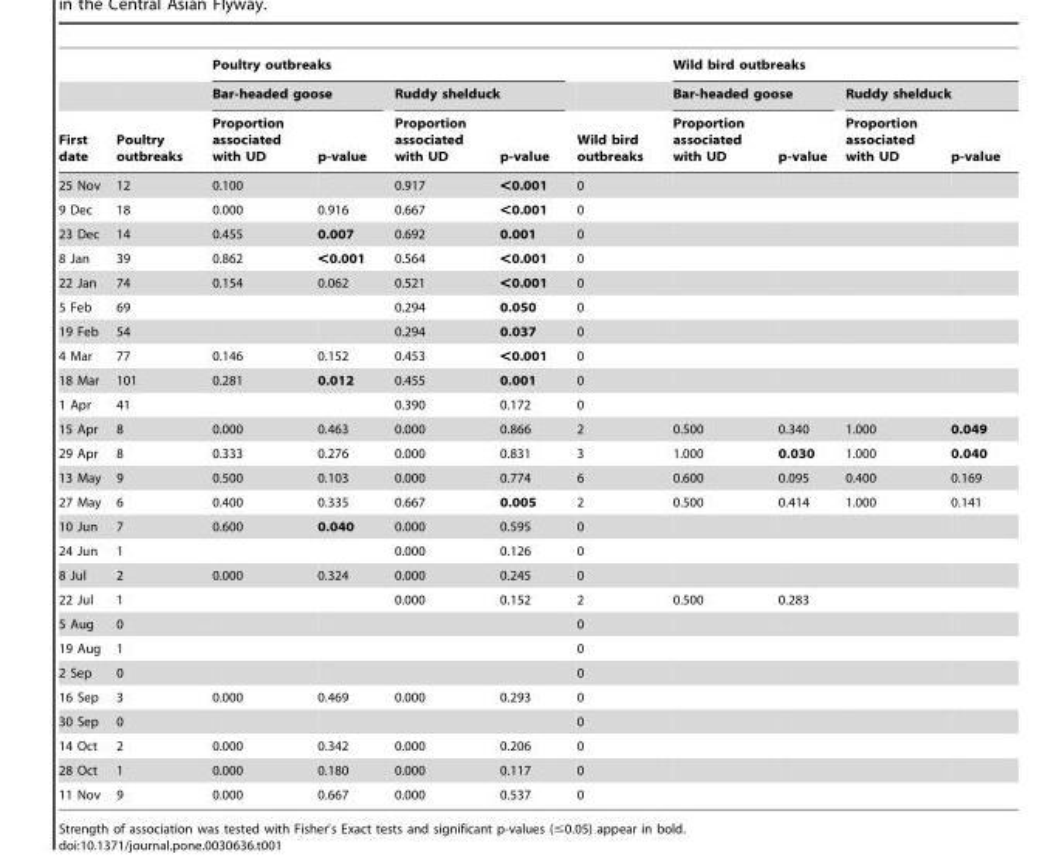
<table><thead><tr><td rowspan="3">First date</td><td rowspan="3">Poultry outbreaks</td><td colspan="4">Poultry outbreaks</td><td rowspan="3">Wild bird outbreaks</td><td colspan="4">Wild bird outbreaks</td></tr><tr><td colspan="2">Bar-headed goose</td><td colspan="2">Ruddy shelduck</td><td colspan="2">Bar-headed goose</td><td colspan="2">Ruddy shelduck</td></tr><tr><td>Proportion associated with UD</td><td>p-value</td><td>Proportion associated with UD</td><td>p-value</td><td>Proportion associated with UD</td><td>p-value</td><td>Proportion associated with UD</td><td>p-value</td></tr></thead><tbody><tr><td>25 Nov</td><td>12</td><td>0.100</td><td></td><td>0.917</td><td>&lt;0.001</td><td>0</td><td></td><td></td><td></td><td></td></tr><tr><td>9 Dec</td><td>18</td><td>0.000</td><td>0.916</td><td>0.667</td><td>&lt;0.001</td><td>0</td><td></td><td></td><td></td><td></td></tr><tr><td>23 Dec</td><td>14</td><td>0.455</td><td>0.007</td><td>0.692</td><td>0.001</td><td>0</td><td></td><td></td><td></td><td></td></tr><tr><td>8 Jan</td><td>39</td><td>0.862</td><td>&lt;0.001</td><td>0.564</td><td>&lt;0.001</td><td>0</td><td></td><td></td><td></td><td></td></tr><tr><td>22 Jan</td><td>74</td><td>0.154</td><td>0.062</td><td>0.521</td><td>&lt;0.001</td><td>0</td><td></td><td></td><td></td><td></td></tr><tr><td>5 Feb</td><td>69</td><td></td><td></td><td>0.294</td><td>0.050</td><td>0</td><td></td><td></td><td></td><td></td></tr><tr><td>19 Feb</td><td>54</td><td></td><td></td><td>0.294</td><td>0.037</td><td>0</td><td></td><td></td><td></td><td></td></tr><tr><td>4 Mar</td><td>77</td><td>0.146</td><td>0.152</td><td>0.453</td><td>&lt;0.001</td><td>0</td><td></td><td></td><td></td><td></td></tr><tr><td>18 Mar</td><td>101</td><td>0.281</td><td>0.012</td><td>0.455</td><td>0.001</td><td>0</td><td></td><td></td><td></td><td></td></tr><tr><td>1 Apr</td><td>41</td><td></td><td></td><td>0.390</td><td>0.172</td><td>0</td><td></td><td></td><td></td><td></td></tr><tr><td>15 Apr</td><td>8</td><td>0.000</td><td>0.463</td><td>0.000</td><td>0.866</td><td>2</td><td>0.500</td><td>0.340</td><td>1.000</td><td>0.049</td></tr><tr><td>29 Apr</td><td>8</td><td>0.333</td><td>0.276</td><td>0.000</td><td>0.831</td><td>3</td><td>1.000</td><td>0.030</td><td>1.000</td><td>0.040</td></tr><tr><td>13 May</td><td>9</td><td>0.500</td><td>0.103</td><td>0.000</td><td>0.774</td><td>6</td><td>0.600</td><td>0.095</td><td>0.400</td><td>0.169</td></tr><tr><td>27 May</td><td>6</td><td>0.400</td><td>0.335</td><td>0.667</td><td>0.005</td><td>2</td><td>0.500</td><td>0.414</td><td>1.000</td><td>0.141</td></tr><tr><td>10 Jun</td><td>7</td><td>0.600</td><td>0.040</td><td>0.000</td><td>0.595</td><td>0</td><td></td><td></td><td></td><td></td></tr><tr><td>24 Jun</td><td>1</td><td></td><td></td><td>0.000</td><td>0.126</td><td>0</td><td></td><td></td><td></td><td></td></tr><tr><td>8 Jul</td><td>2</td><td>0.000</td><td>0.324</td><td>0.000</td><td>0.245</td><td>0</td><td></td><td></td><td></td><td></td></tr><tr><td>22 Jul</td><td>1</td><td></td><td></td><td>0.000</td><td>0.152</td><td>2</td><td>0.500</td><td>0.283</td><td></td><td></td></tr><tr><td>5 Aug</td><td>0</td><td></td><td></td><td></td><td></td><td>0</td><td></td><td></td><td></td><td></td></tr><tr><td>19 Aug</td><td>1</td><td></td><td></td><td></td><td></td><td>0</td><td></td><td></td><td></td><td></td></tr><tr><td>2 Sep</td><td>0</td><td></td><td></td><td></td><td></td><td>0</td><td></td><td></td><td></td><td></td></tr><tr><td>16 Sep</td><td>3</td><td>0.000</td><td>0.469</td><td>0.000</td><td>0.293</td><td>0</td><td></td><td></td><td></td><td></td></tr><tr><td>30 Sep</td><td>0</td><td></td><td></td><td></td><td></td><td>0</td><td></td><td></td><td></td><td></td></tr><tr><td>14 Oct</td><td>2</td><td>0.000</td><td>0.342</td><td>0.000</td><td>0.206</td><td>0</td><td></td><td></td><td></td><td></td></tr><tr><td>28 Oct</td><td>1</td><td>0.000</td><td>0.180</td><td>0.000</td><td>0.117</td><td>0</td><td></td><td></td><td></td><td></td></tr><tr><td>11 Nov</td><td>9</td><td>0.000</td><td>0.667</td><td>0.000</td><td>0.537</td><td>0</td><td></td><td></td><td></td><td></td></tr></tbody></table>